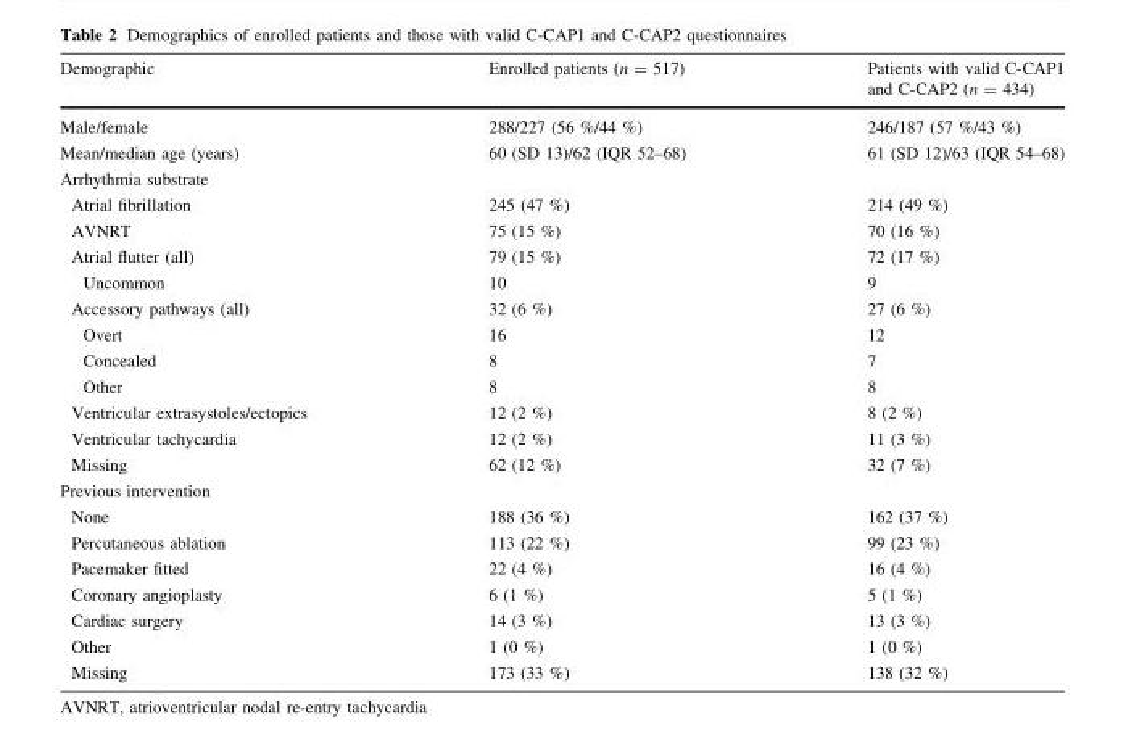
<table><thead><tr><td>Demographic</td><td>Enrolled patients (n = 517)</td><td>Patients with valid C-CAP1 and C-CAP2 (n = 434)</td></tr></thead><tbody><tr><td>Male/female</td><td>288/227 (56 %/44 %)</td><td>246/187 (57 %/43 %)</td></tr><tr><td>Mean/median age (years)</td><td>60 (SD 13)/62 (IQR 52–68)</td><td>61 (SD 12)/63 (IQR 54–68)</td></tr><tr><td colspan="3">Arrhythmia substrate</td></tr><tr><td>Atrial fibrillation</td><td>245 (47 %)</td><td>214 (49 %)</td></tr><tr><td>AVNRT</td><td>75 (15 %)</td><td>70 (16 %)</td></tr><tr><td>Atrial flutter (all)</td><td>79 (15 %)</td><td>72 (17 %)</td></tr><tr><td>Uncommon</td><td>10</td><td>9</td></tr><tr><td>Accessory pathways (all)</td><td>32 (6 %)</td><td>27 (6 %)</td></tr><tr><td>Overt</td><td>16</td><td>12</td></tr><tr><td>Concealed</td><td>8</td><td>7</td></tr><tr><td>Other</td><td>8</td><td>8</td></tr><tr><td>Ventricular extrasystoles/ectopics</td><td>12 (2 %)</td><td>8 (2 %)</td></tr><tr><td>Ventricular tachycardia</td><td>12 (2 %)</td><td>11 (3 %)</td></tr><tr><td>Missing</td><td>62 (12 %)</td><td>32 (7 %)</td></tr><tr><td colspan="3">Previous intervention</td></tr><tr><td>None</td><td>188 (36 %)</td><td>162 (37 %)</td></tr><tr><td>Percutaneous ablation</td><td>113 (22 %)</td><td>99 (23 %)</td></tr><tr><td>Pacemaker fitted</td><td>22 (4 %)</td><td>16 (4 %)</td></tr><tr><td>Coronary angioplasty</td><td>6 (1 %)</td><td>5 (1 %)</td></tr><tr><td>Cardiac surgery</td><td>14 (3 %)</td><td>13 (3 %)</td></tr><tr><td>Other</td><td>1 (0 %)</td><td>1 (0 %)</td></tr><tr><td>Missing</td><td>173 (33 %)</td><td>138 (32 %)</td></tr></tbody></table>